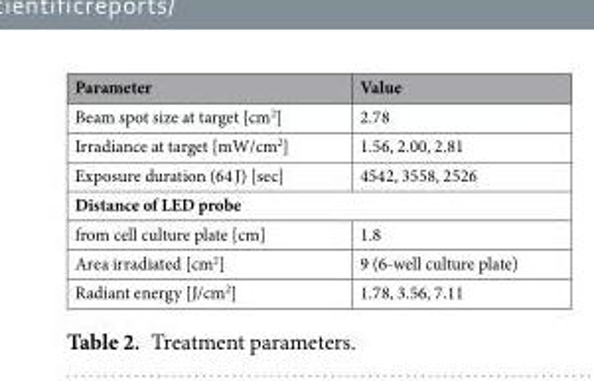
<table><thead><tr><td>Parameter</td><td>Value</td></tr></thead><tbody><tr><td>Beam spot size at target [cm<sup>2</sup>]</td><td>2.78</td></tr><tr><td>Irradiance at target [mW/cm<sup>2</sup>]</td><td>1.56, 2.00, 2.81</td></tr><tr><td>Exposure duration (64 J) [sec]</td><td>4542, 3558, 2526</td></tr><tr><td colspan="2">Distance of LED probe</td></tr><tr><td>from cell culture plate [cm]</td><td>1.8</td></tr><tr><td>Area irradiated [cm<sup>2</sup>]</td><td>9 (6-well culture plate)</td></tr><tr><td>Radiant energy [J/cm<sup>2</sup>]</td><td>1.78, 3.56, 7.11</td></tr></tbody></table>